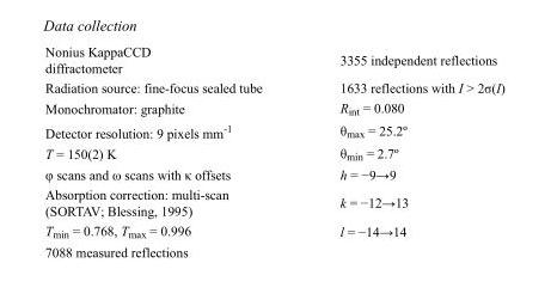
<table><tbody><tr><td>Nonius KappaCCD diffractometer</td><td>3355 independent reflections</td></tr><tr><td>Radiation source: fine-focus sealed tube</td><td>1633 reflections with I &gt; 2σ(I)</td></tr><tr><td>Monochromator: graphite</td><td>R<sub>int</sub> = 0.080</td></tr><tr><td>Detector resolution: 9 pixels mm<sup>-1</sup></td><td>θ<sub>max</sub> = 25.2º</td></tr><tr><td>T = 150(2) K</td><td>θ<sub>min</sub> = 2.7º</td></tr><tr><td>φ scans and ω scans with κ offsets</td><td>h = −9→9</td></tr><tr><td>Absorption correction: multi-scan (SORTAV; Blessing, 1995)</td><td>k = −12→13</td></tr><tr><td>T<sub>min</sub> = 0.768, T<sub>max</sub> = 0.996</td><td>l = −14→14</td></tr><tr><td>7088 measured reflections</td><td></td></tr></tbody></table>